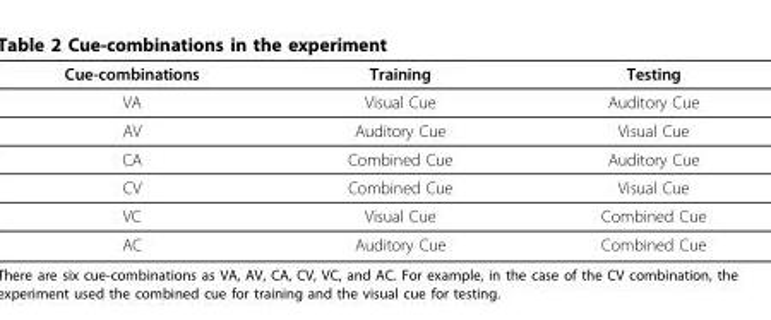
<table><thead><tr><td>Cue-combinations</td><td>Training</td><td>Testing</td></tr></thead><tbody><tr><td>VA</td><td>Visual Cue</td><td>Auditory Cue</td></tr><tr><td>AV</td><td>Auditory Cue</td><td>Visual Cue</td></tr><tr><td>CA</td><td>Combined Cue</td><td>Auditory Cue</td></tr><tr><td>CV</td><td>Combined Cue</td><td>Visual Cue</td></tr><tr><td>VC</td><td>Visual Cue</td><td>Combined Cue</td></tr><tr><td>AC</td><td>Auditory Cue</td><td>Combined Cue</td></tr></tbody></table>